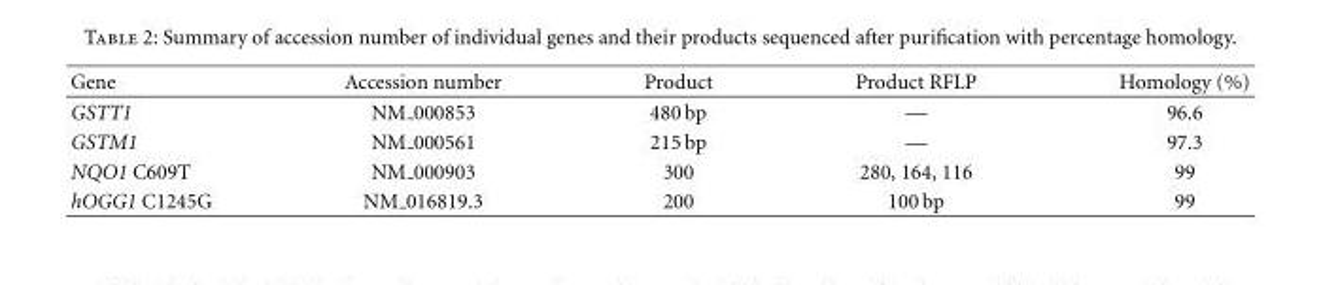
<table><thead><tr><td>Gene</td><td>Accession number</td><td>Product</td><td>Product RFLP</td><td>Homology (%)</td></tr></thead><tbody><tr><td>GSTT1</td><td>NM 000853</td><td>480 bp</td><td>—</td><td>96.6</td></tr><tr><td>GSTM1</td><td>NM 000561</td><td>215 bp</td><td>—</td><td>97.3</td></tr><tr><td>NQO1 C609T</td><td>NM 000903</td><td>300</td><td>280, 164, 116</td><td>99</td></tr><tr><td>hOGG1 C1245G</td><td>NM 016819.3</td><td>200</td><td>100 bp</td><td>99</td></tr></tbody></table>